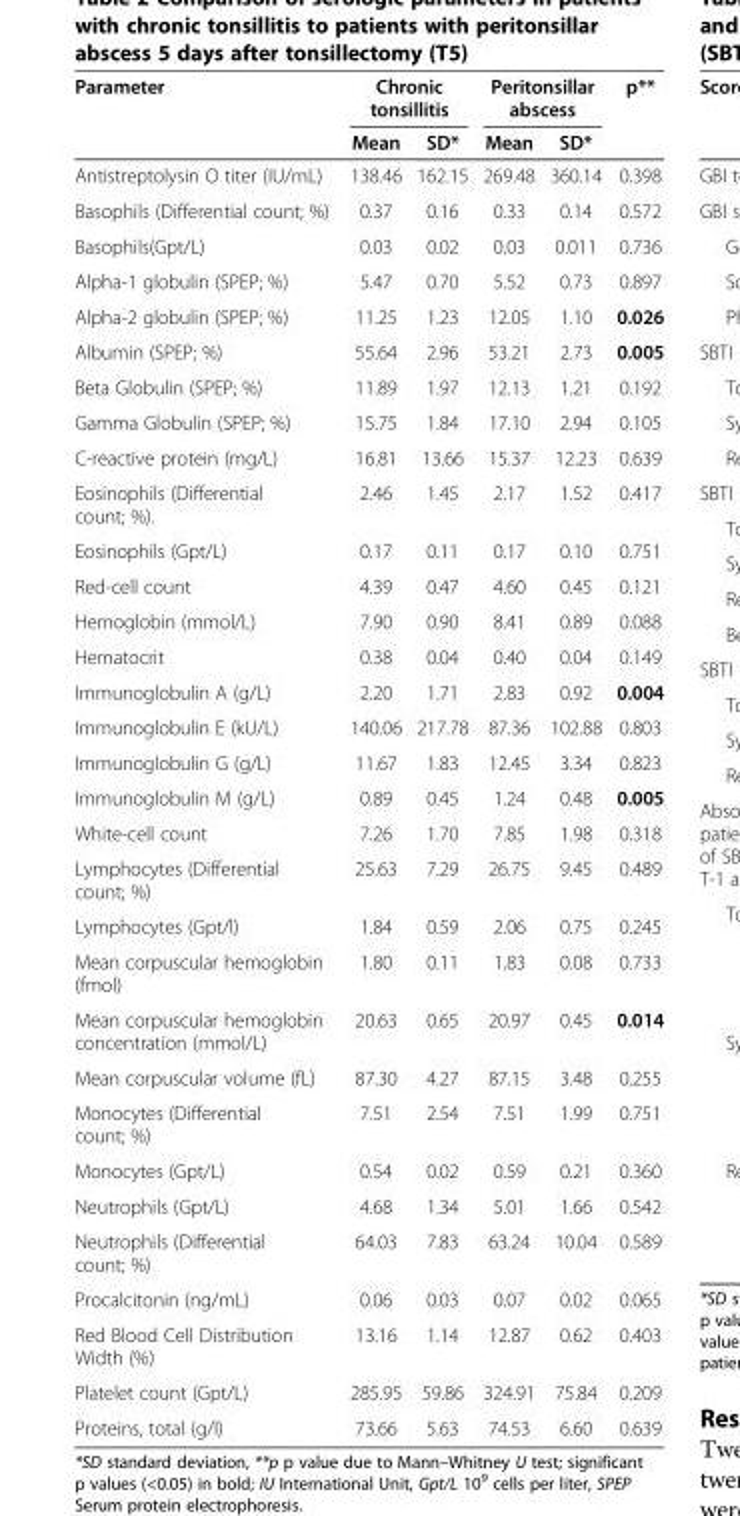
<table><thead><tr><td rowspan="2">Parameter</td><td colspan="2">Chronic tonsillitis</td><td colspan="2">Peritonsillar abscess</td><td rowspan="2">p**</td></tr><tr><td>Mean</td><td>SD*</td><td>Mean</td><td>SD*</td></tr></thead><tbody><tr><td>Antistreptolysin O titer (IU/mL)</td><td>138.46</td><td>162.15</td><td>269.48</td><td>360.14</td><td>0.398</td></tr><tr><td>Basophils (Differential count; %)</td><td>0.37</td><td>0.16</td><td>0.33</td><td>0.14</td><td>0.572</td></tr><tr><td>Basophils(Gpt/L)</td><td>0.03</td><td>0.02</td><td>0.03</td><td>0.011</td><td>0.736</td></tr><tr><td>Alpha-1 globulin (SPEP; %)</td><td>5.47</td><td>0.70</td><td>5.52</td><td>0.73</td><td>0.897</td></tr><tr><td>Alpha-2 globulin (SPEP; %)</td><td>11.25</td><td>1.23</td><td>12.05</td><td>1.10</td><td>0.026</td></tr><tr><td>Albumin (SPEP; %)</td><td>55.64</td><td>2.96</td><td>53.21</td><td>2.73</td><td>0.005</td></tr><tr><td>Beta Globulin (SPEP; %)</td><td>11.89</td><td>1.97</td><td>12.13</td><td>1.21</td><td>0.192</td></tr><tr><td>Gamma Globulin (SPEP; %)</td><td>15.75</td><td>1.84</td><td>17.10</td><td>2.94</td><td>0.105</td></tr><tr><td>C-reactive protein (mg/L)</td><td>16.81</td><td>13.66</td><td>15.37</td><td>12.23</td><td>0.639</td></tr><tr><td>Eosinophils (Differential count; %).</td><td>2.46</td><td>1.45</td><td>2.17</td><td>1.52</td><td>0.417</td></tr><tr><td>Eosinophils (Gpt/L)</td><td>0.17</td><td>0.11</td><td>0.17</td><td>0.10</td><td>0.751</td></tr><tr><td>Red-cell count</td><td>4.39</td><td>0.47</td><td>4.60</td><td>0.45</td><td>0.121</td></tr><tr><td>Hemoglobin (mmol/L)</td><td>7.90</td><td>0.90</td><td>8.41</td><td>0.89</td><td>0.088</td></tr><tr><td>Hematocrit</td><td>0.38</td><td>0.04</td><td>0.40</td><td>0.04</td><td>0.149</td></tr><tr><td>Immunoglobulin A (g/L)</td><td>2.20</td><td>1.71</td><td>2.83</td><td>0.92</td><td>0.004</td></tr><tr><td>Immunoglobulin E (kU/L)</td><td>140.06</td><td>217.78</td><td>87.36</td><td>102.88</td><td>0.803</td></tr><tr><td>Immunoglobulin G (g/L)</td><td>11.67</td><td>1.83</td><td>12.45</td><td>3.34</td><td>0.823</td></tr><tr><td>Immunoglobulin M (g/L)</td><td>0.89</td><td>0.45</td><td>1.24</td><td>0.48</td><td>0.005</td></tr><tr><td>White-cell count</td><td>7.26</td><td>1.70</td><td>7.85</td><td>1.98</td><td>0.318</td></tr><tr><td>Lymphocytes (Differential count; %)</td><td>25.63</td><td>7.29</td><td>26.75</td><td>9.45</td><td>0.489</td></tr><tr><td>Lymphocytes (Gpt/l)</td><td>1.84</td><td>0.59</td><td>2.06</td><td>0.75</td><td>0.245</td></tr><tr><td>Mean corpuscular hemoglobin (fmol)</td><td>1.80</td><td>0.11</td><td>1.83</td><td>0.08</td><td>0.733</td></tr><tr><td>Mean corpuscular hemoglobin concentration (mmol/L)</td><td>20.63</td><td>0.65</td><td>20.97</td><td>0.45</td><td>0.014</td></tr><tr><td>Mean corpuscular volume (fL)</td><td>87.30</td><td>4.27</td><td>87.15</td><td>3.48</td><td>0.255</td></tr><tr><td>Monocytes (Differential count; %)</td><td>7.51</td><td>2.54</td><td>7.51</td><td>1.99</td><td>0.751</td></tr><tr><td>Monocytes (Gpt/L)</td><td>0.54</td><td>0.02</td><td>0.59</td><td>0.21</td><td>0.360</td></tr><tr><td>Neutrophils (Gpt/L)</td><td>4.68</td><td>1.34</td><td>5.01</td><td>1.66</td><td>0.542</td></tr><tr><td>Neutrophils (Differential count; %)</td><td>64.03</td><td>7.83</td><td>63.24</td><td>10.04</td><td>0.589</td></tr><tr><td>Procalcitonin (ng/mL)</td><td>0.06</td><td>0.03</td><td>0.07</td><td>0.02</td><td>0.065</td></tr><tr><td>Red Blood Cell Distribution Width (%)</td><td>13.16</td><td>1.14</td><td>12.87</td><td>0.62</td><td>0.403</td></tr><tr><td>Platelet count (Gpt/L)</td><td>285.95</td><td>59.86</td><td>324.91</td><td>75.84</td><td>0.209</td></tr><tr><td>Proteins, total (g/l)</td><td>73.66</td><td>5.63</td><td>74.53</td><td>6.60</td><td>0.639</td></tr></tbody></table>